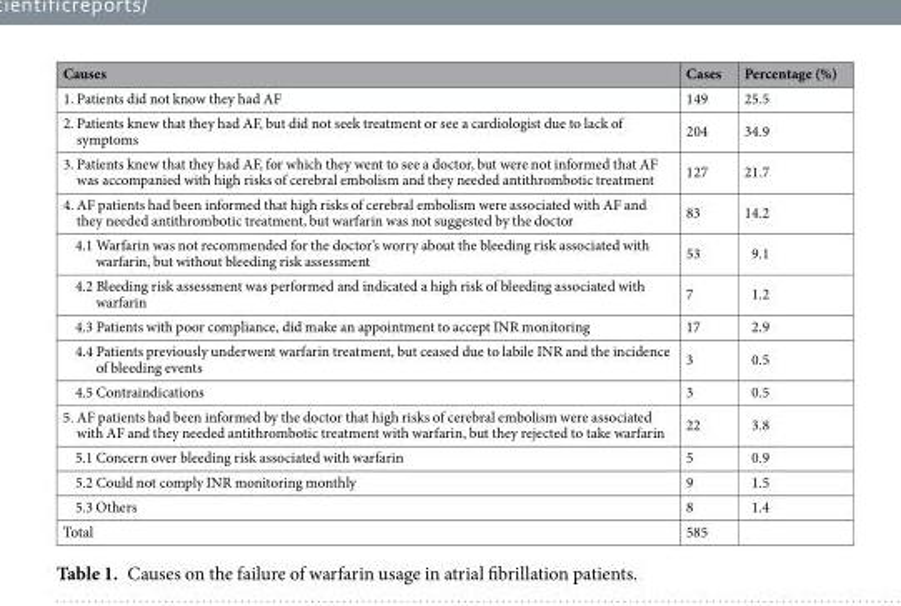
<table><thead><tr><td>Causes</td><td>Cases</td><td>Percentage (%)</td></tr></thead><tbody><tr><td>1. Patients did not know they had AF</td><td>149</td><td>25.5</td></tr><tr><td>2. Patients knew that they had AF, but did not seek treatment or see a cardiologist due to lack of symptoms</td><td>204</td><td>34.9</td></tr><tr><td>3. Patients knew that they had AF, for which they went to see a doctor, but were not informed that AF was accompanied with high risks of cerebral embolism and they needed antithrombotic treatment</td><td>127</td><td>21.7</td></tr><tr><td>4. AF patients had been informed that high risks of cerebral embolism were associated with AF and they needed antithrombotic treatment, but warfarin was not suggested by the doctor</td><td>83</td><td>14.2</td></tr><tr><td>4.1 Warfarin was not recommended for the doctor’s worry about the bleeding risk associated with warfarin, but without bleeding risk assessment</td><td>53</td><td>9.1</td></tr><tr><td>4.2 Bleeding risk assessment was performed and indicated a high risk of bleeding associated with warfarin</td><td>7</td><td>1.2</td></tr><tr><td>4.3 Patients with poor compliance, did make an appointment to accept INR monitoring</td><td>17</td><td>2.9</td></tr><tr><td>4.4 Patients previously underwent warfarin treatment, but ceased due to labile INR and the incidence of bleeding events</td><td>3</td><td>0.5</td></tr><tr><td>4.5 Contraindications</td><td>3</td><td>0.5</td></tr><tr><td>5. AF patients had been informed by the doctor that high risks of cerebral embolism were associated with AF and they needed antithrombotic treatment with warfarin, but they rejected to take warfarin</td><td>22</td><td>3.8</td></tr><tr><td>5.1 Concern over bleeding risk associated with warfarin</td><td>5</td><td>0.9</td></tr><tr><td>5.2 Could not comply INR monitoring monthly</td><td>9</td><td>1.5</td></tr><tr><td>5.3 Others</td><td>8</td><td>1.4</td></tr><tr><td>Total</td><td>585</td><td></td></tr></tbody></table>